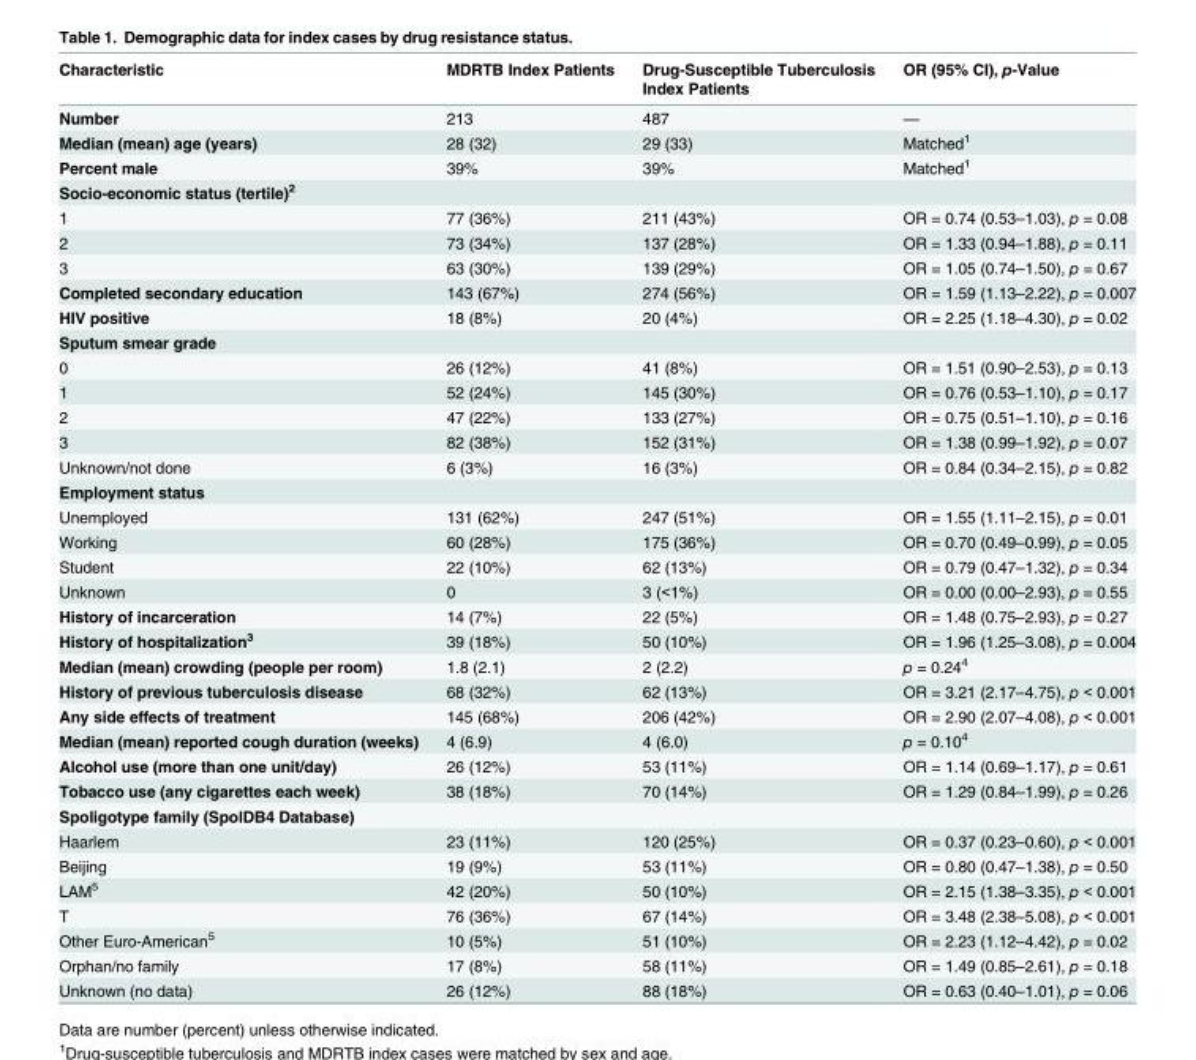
<table><thead><tr><td>Characteristic</td><td>MDRTB Index Patients</td><td>Drug-Susceptible Tuberculosis Index Patients</td><td>OR (95% CI), p-Value</td></tr></thead><tbody><tr><td>Number</td><td>213</td><td>487</td><td>—</td></tr><tr><td>Median (mean) age (years)</td><td>28 (32)</td><td>29 (33)</td><td>Matched<sup>1</sup></td></tr><tr><td>Percent male</td><td>39%</td><td>39%</td><td>Matched<sup>1</sup></td></tr><tr><td colspan="4">Socio-economic status (tertile)<sup>2</sup></td></tr><tr><td>1</td><td>77 (36%)</td><td>211 (43%)</td><td>OR = 0.74 (0.53–1.03), p = 0.08</td></tr><tr><td>2</td><td>73 (34%)</td><td>137 (28%)</td><td>OR = 1.33 (0.94–1.88), p = 0.11</td></tr><tr><td>3</td><td>63 (30%)</td><td>139 (29%)</td><td>OR = 1.05 (0.74–1.50), p = 0.67</td></tr><tr><td>Completed secondary education</td><td>143 (67%)</td><td>274 (56%)</td><td>OR = 1.59 (1.13–2.22), p = 0.007</td></tr><tr><td>HIV positive</td><td>18 (8%)</td><td>20 (4%)</td><td>OR = 2.25 (1.18–4.30), p = 0.02</td></tr><tr><td colspan="4">Sputum smear grade</td></tr><tr><td>0</td><td>26 (12%)</td><td>41 (8%)</td><td>OR = 1.51 (0.90–2.53), p = 0.13</td></tr><tr><td>1</td><td>52 (24%)</td><td>145 (30%)</td><td>OR = 0.76 (0.53–1.10), p = 0.17</td></tr><tr><td>2</td><td>47 (22%)</td><td>133 (27%)</td><td>OR = 0.75 (0.51–1.10), p = 0.16</td></tr><tr><td>3</td><td>82 (38%)</td><td>152 (31%)</td><td>OR = 1.38 (0.99–1.92), p = 0.07</td></tr><tr><td>Unknown/not done</td><td>6 (3%)</td><td>16 (3%)</td><td>OR = 0.84 (0.34–2.15), p = 0.82</td></tr><tr><td colspan="4">Employment status</td></tr><tr><td>Unemployed</td><td>131 (62%)</td><td>247 (51%)</td><td>OR = 1.55 (1.11–2.15), p = 0.01</td></tr><tr><td>Working</td><td>60 (28%)</td><td>175 (36%)</td><td>OR = 0.70 (0.49–0.99), p = 0.05</td></tr><tr><td>Student</td><td>22 (10%)</td><td>62 (13%)</td><td>OR = 0.79 (0.47–1.32), p = 0.34</td></tr><tr><td>Unknown</td><td>0</td><td>3 (&lt;1%)</td><td>OR = 0.00 (0.00–2.93), p = 0.55</td></tr><tr><td>History of incarceration</td><td>14 (7%)</td><td>22 (5%)</td><td>OR = 1.48 (0.75–2.93), p = 0.27</td></tr><tr><td>History of hospitalization<sup>3</sup></td><td>39 (18%)</td><td>50 (10%)</td><td>OR = 1.96 (1.25–3.08), p = 0.004</td></tr><tr><td>Median (mean) crowding (people per room)</td><td>1.8 (2.1)</td><td>2 (2.2)</td><td>p = 0.24<sup>4</sup></td></tr><tr><td>History of previous tuberculosis disease</td><td>68 (32%)</td><td>62 (13%)</td><td>OR = 3.21 (2.17–4.75), p &lt; 0.001</td></tr><tr><td>Any side effects of treatment</td><td>145 (68%)</td><td>206 (42%)</td><td>OR = 2.90 (2.07–4.08), p &lt; 0.001</td></tr><tr><td>Median (mean) reported cough duration (weeks)</td><td>4 (6.9)</td><td>4 (6.0)</td><td>p = 0.10<sup>4</sup></td></tr><tr><td>Alcohol use (more than one unit/day)</td><td>26 (12%)</td><td>53 (11%)</td><td>OR = 1.14 (0.69–1.17), p = 0.61</td></tr><tr><td>Tobacco use (any cigarettes each week)</td><td>38 (18%)</td><td>70 (14%)</td><td>OR = 1.29 (0.84–1.99), p = 0.26</td></tr><tr><td colspan="4">Spoligotype family (SpolDB4 Database)</td></tr><tr><td>Haarlem</td><td>23 (11%)</td><td>120 (25%)</td><td>OR = 0.37 (0.23–0.60), p &lt; 0.001</td></tr><tr><td>Beijing</td><td>19 (9%)</td><td>53 (11%)</td><td>OR = 0.80 (0.47–1.38), p = 0.50</td></tr><tr><td>LAM<sup>5</sup></td><td>42 (20%)</td><td>50 (10%)</td><td>OR = 2.15 (1.38–3.35), p &lt; 0.001</td></tr><tr><td>T</td><td>76 (36%)</td><td>67 (14%)</td><td>OR = 3.48 (2.38–5.08), p &lt; 0.001</td></tr><tr><td>Other Euro-American<sup>5</sup></td><td>10 (5%)</td><td>51 (10%)</td><td>OR = 2.23 (1.12–4.42), p = 0.02</td></tr><tr><td>Orphan/no family</td><td>17 (8%)</td><td>58 (11%)</td><td>OR = 1.49 (0.85–2.61), p = 0.18</td></tr><tr><td>Unknown (no data)</td><td>26 (12%)</td><td>88 (18%)</td><td>OR = 0.63 (0.40–1.01), p = 0.06</td></tr></tbody></table>